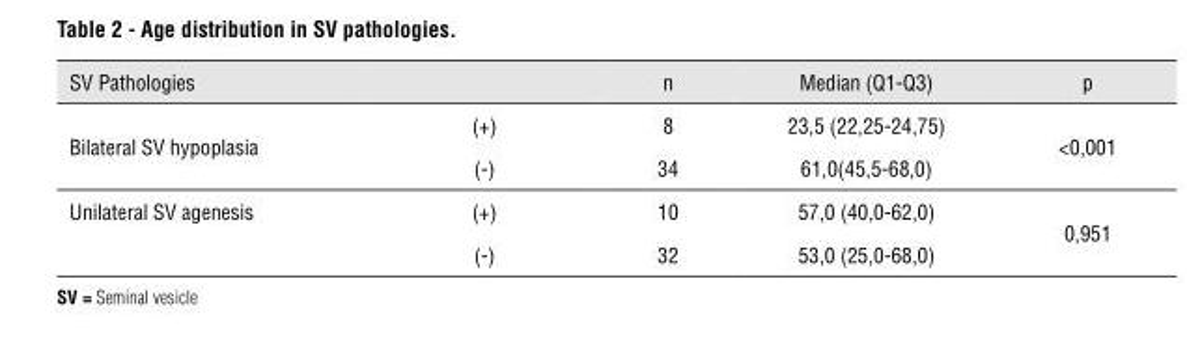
<table><thead><tr><td>SV Pathologies</td><td></td><td>n</td><td>Median (Q1-Q3)</td><td>p</td></tr></thead><tbody><tr><td rowspan="2">Bilateral SV hypoplasia</td><td>(+)</td><td>8</td><td>23,5 (22,25-24,75)</td><td rowspan="2">&lt;0,001</td></tr><tr><td>(-)</td><td>34</td><td>61,0(45,5-68,0)</td></tr><tr><td rowspan="2">Unilateral SV agenesis</td><td>(+)</td><td>10</td><td>57,0 (40,0-62,0)</td><td rowspan="2">0,951</td></tr><tr><td>(-)</td><td>32</td><td>53,0 (25,0-68,0)</td></tr></tbody></table>